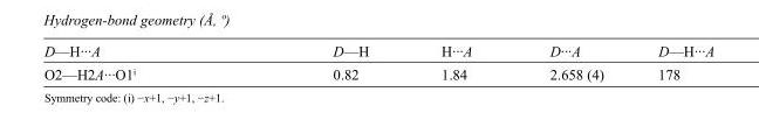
<table><tbody><tr><td>D—H···A</td><td>D—H</td><td>H···A</td><td>D···A</td><td>D—H···A</td></tr><tr><td>O2—H2A···O1<sup>i</sup></td><td>0.82</td><td>1.84</td><td>2.658 (4)</td><td>178</td></tr></tbody></table>